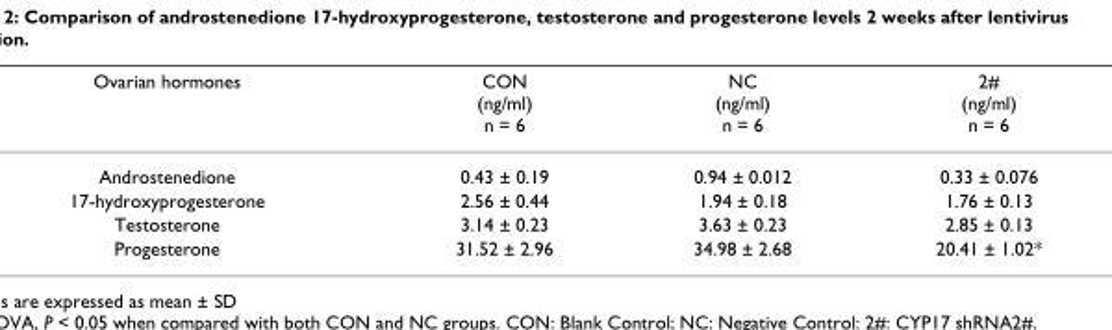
<table><thead><tr><td>Ovarian hormones</td><td>CON (ng/ml) n = 6</td><td>NC (ng/ml) n = 6</td><td>2# (ng/ml) n = 6</td></tr></thead><tbody><tr><td>Androstenedione</td><td>0.43 ± 0.19</td><td>0.94 ± 0.012</td><td>0.33 ± 0.076</td></tr><tr><td>17-hydroxyprogesterone</td><td>2.56 ± 0.44</td><td>1.94 ± 0.18</td><td>1.76 ± 0.13</td></tr><tr><td>Testosterone</td><td>3.14 ± 0.23</td><td>3.63 ± 0.23</td><td>2.85 ± 0.13</td></tr><tr><td>Progesterone</td><td>31.52 ± 2.96</td><td>34.98 ± 2.68</td><td>20.41 ± 1.02*</td></tr></tbody></table>